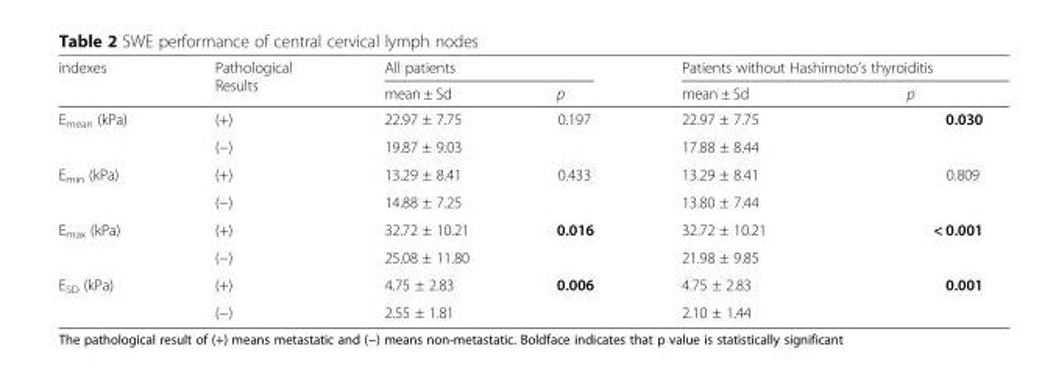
<table><thead><tr><td rowspan="2">indexes</td><td rowspan="2">Pathological Results</td><td colspan="2">All patients</td><td colspan="2">Patients without Hashimoto’s thyroiditis</td></tr><tr><td>mean ± Sd</td><td>p</td><td>mean ± Sd</td><td>p</td></tr></thead><tbody><tr><td rowspan="2">E<sub>mean</sub> (kPa)</td><td>(+)</td><td>22.97 ± 7.75</td><td rowspan="2">0.197</td><td>22.97 ± 7.75</td><td rowspan="2">0.030</td></tr><tr><td>(−)</td><td>19.87 ± 9.03</td><td>17.88 ± 8.44</td></tr><tr><td rowspan="2">E<sub>min</sub> (kPa)</td><td>(+)</td><td>13.29 ± 8.41</td><td rowspan="2">0.433</td><td>13.29 ± 8.41</td><td rowspan="2">0.809</td></tr><tr><td>(−)</td><td>14.88 ± 7.25</td><td>13.80 ± 7.44</td></tr><tr><td rowspan="2">E<sub>max</sub> (kPa)</td><td>(+)</td><td>32.72 ± 10.21</td><td rowspan="2">0.016</td><td>32.72 ± 10.21</td><td rowspan="2">&lt; 0.001</td></tr><tr><td>(−)</td><td>25.08 ± 11.80</td><td>21.98 ± 9.85</td></tr><tr><td rowspan="2">E<sub>SD</sub> (kPa)</td><td>(+)</td><td>4.75 ± 2.83</td><td rowspan="2">0.006</td><td>4.75 ± 2.83</td><td rowspan="2">0.001</td></tr><tr><td>(−)</td><td>2.55 ± 1.81</td><td>2.10 ± 1.44</td></tr></tbody></table>